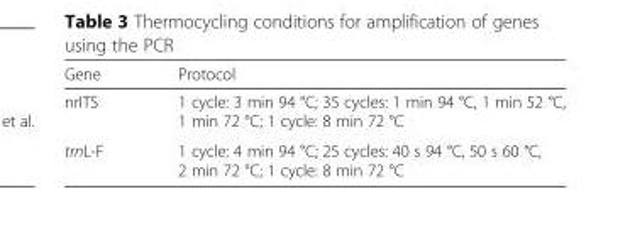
<table><thead><tr><td>Gene</td><td>Protocol</td></tr></thead><tbody><tr><td>nrITS</td><td>1 cycle: 3 min 94 °C; 35 cycles: 1 min 94 °C, 1 min 52 °C, 1 min 72 °C; 1 cycle: 8 min 72 °C</td></tr><tr><td>trnL-F</td><td>1 cycle: 4 min 94 °C; 25 cycles: 40 s 94 °C, 50 s 60 °C, 2 min 72 °C; 1 cycle: 8 min 72 °C</td></tr></tbody></table>